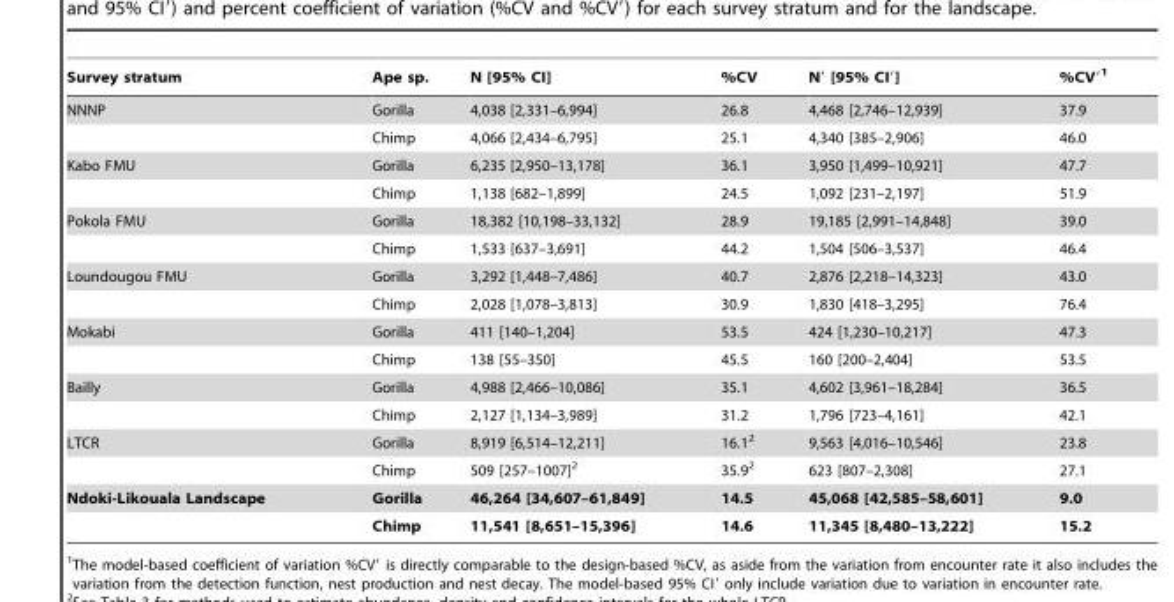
<table><thead><tr><td>Survey stratum</td><td>Ape sp.</td><td>N [95% CI]</td><td>%CV</td><td>N′ [95% CI′]</td><td>%CV′<sup>1</sup></td></tr></thead><tbody><tr><td rowspan="2">NNNP</td><td>Gorilla</td><td>4,038 [2,331–6,994]</td><td>26.8</td><td>4,468 [2,746–12,939]</td><td>37.9</td></tr><tr><td>Chimp</td><td>4,066 [2,434–6,795]</td><td>25.1</td><td>4,340 [385–2,906]</td><td>46.0</td></tr><tr><td rowspan="2">Kabo FMU</td><td>Gorilla</td><td>6,235 [2,950–13,178]</td><td>36.1</td><td>3,950 [1,499–10,921]</td><td>47.7</td></tr><tr><td>Chimp</td><td>1,138 [682–1,899]</td><td>24.5</td><td>1,092 [231–2,197]</td><td>51.9</td></tr><tr><td rowspan="2">Pokola FMU</td><td>Gorilla</td><td>18,382 [10,198–33,132]</td><td>28.9</td><td>19,185 [2,991–14,848]</td><td>39.0</td></tr><tr><td>Chimp</td><td>1,533 [637–3,691]</td><td>44.2</td><td>1,504 [506–3,537]</td><td>46.4</td></tr><tr><td rowspan="2">Loundougou FMU</td><td>Gorilla</td><td>3,292 [1,448–7,486]</td><td>40.7</td><td>2,876 [2,218–14,323]</td><td>43.0</td></tr><tr><td>Chimp</td><td>2,028 [1,078–3,813]</td><td>30.9</td><td>1,830 [418–3,295]</td><td>76.4</td></tr><tr><td rowspan="2">Mokabi</td><td>Gorilla</td><td>411 [140–1,204]</td><td>53.5</td><td>424 [1,230–10,217]</td><td>47.3</td></tr><tr><td>Chimp</td><td>138 [55–350]</td><td>45.5</td><td>160 [200–2,404]</td><td>53.5</td></tr><tr><td rowspan="2">Bailly</td><td>Gorilla</td><td>4,988 [2,466–10,086]</td><td>35.1</td><td>4,602 [3,961–18,284]</td><td>36.5</td></tr><tr><td>Chimp</td><td>2,127 [1,134–3,989]</td><td>31.2</td><td>1,796 [723–4,161]</td><td>42.1</td></tr><tr><td rowspan="2">LTCR</td><td>Gorilla</td><td>8,919 [6,514–12,211]</td><td>16.1<sup>2</sup></td><td>9,563 [4,016–10,546]</td><td>23.8</td></tr><tr><td>Chimp</td><td>509 [257–1007]<sup>2</sup></td><td>35.9<sup>2</sup></td><td>623 [807–2,308]</td><td>27.1</td></tr><tr><td rowspan="2">Ndoki-Likouala Landscape</td><td>Gorilla</td><td>46,264 [34,607–61,849]</td><td>14.5</td><td>45,068 [42,585–58,601]</td><td>9.0</td></tr><tr><td>Chimp</td><td>11,541 [8,651–15,396]</td><td>14.6</td><td>11,345 [8,480–13,222]</td><td>15.2</td></tr></tbody></table>